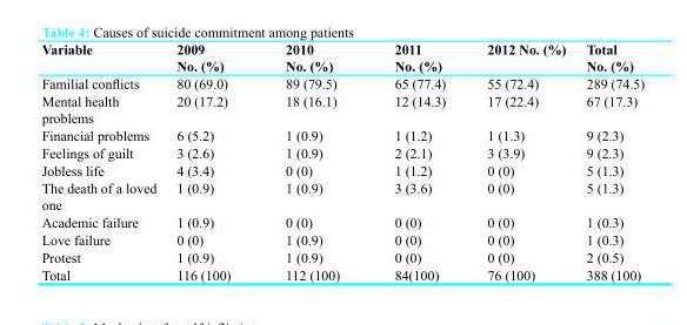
<table><thead><tr><td>Variable</td><td>2009 No. (%)</td><td>2010 No. (%)</td><td>2011 No. (%)</td><td>2012 No. (%)</td><td>Total No. (%)</td></tr></thead><tbody><tr><td>Familial conflicts</td><td>80 (69.0)</td><td>89 (79.5)</td><td>65 (77.4)</td><td>55 (72.4)</td><td>289 (74.5)</td></tr><tr><td>Mental health problems</td><td>20 (17.2)</td><td>18 (16.1)</td><td>12 (14.3)</td><td>17 (22.4)</td><td>67 (17.3)</td></tr><tr><td>Financial problems</td><td>6 (5.2)</td><td>1 (0.9)</td><td>1 (1.2)</td><td>1 (1.3)</td><td>9 (2.3)</td></tr><tr><td>Feelings of guilt</td><td>3 (2.6)</td><td>1 (0.9)</td><td>2 (2.1)</td><td>3 (3.9)</td><td>9 (2.3)</td></tr><tr><td>Jobless life</td><td>4 (3.4)</td><td>0 (0)</td><td>1 (1.2)</td><td>0 (0)</td><td>5 (1.3)</td></tr><tr><td>The death of a loved one</td><td>1 (0.9)</td><td>1 (0.9)</td><td>3 (3.6)</td><td>0 (0)</td><td>5 (1.3)</td></tr><tr><td>Academic failure</td><td>1 (0.9)</td><td>0 (0)</td><td>0 (0)</td><td>0 (0)</td><td>1 (0.3)</td></tr><tr><td>Love failure</td><td>0 (0)</td><td>1 (0.9)</td><td>0 (0)</td><td>0 (0)</td><td>1 (0.3)</td></tr><tr><td>Protest</td><td>1 (0.9)</td><td>1 (0.9)</td><td>0 (0)</td><td>0 (0)</td><td>2 (0.5)</td></tr><tr><td>Total</td><td>116 (100)</td><td>112 (100)</td><td>84(100)</td><td>76 (100)</td><td>388 (100)</td></tr></tbody></table>